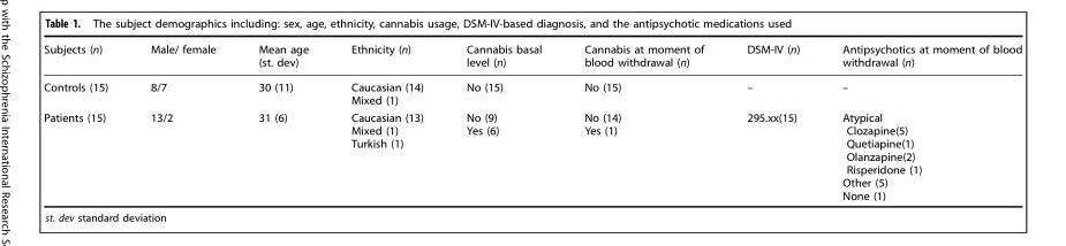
<table><thead><tr><td>Subjects (n)</td><td>Male/ female</td><td>Mean age (st. dev)</td><td>Ethnicity (n)</td><td>Cannabis basal level (n)</td><td>Cannabis at moment of blood withdrawal (n)</td><td>DSM-IV (n)</td><td>Antipsychotics at moment of blood withdrawal (n)</td></tr></thead><tbody><tr><td>Controls (15)</td><td>8/7</td><td>30 (11)</td><td>Caucasian (14) Mixed (1)</td><td>No (15)</td><td>No (15)</td><td>–</td><td>–</td></tr><tr><td>Patients (15)</td><td>13/2</td><td>31 (6)</td><td>Caucasian (13) Mixed (1) Turkish (1)</td><td>No (9) Yes (6)</td><td>No (14) Yes (1)</td><td>295.xx(15)</td><td>Atypical Clozapine(5) Quetiapine(1) Olanzapine(2) Risperidone (1) Other (5) None (1)</td></tr></tbody></table>